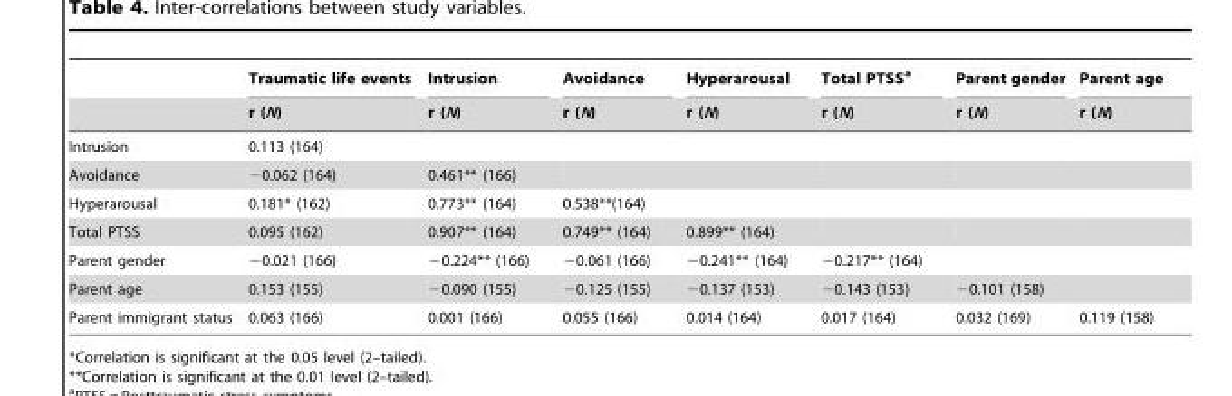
<table><thead><tr><td rowspan="2"></td><td rowspan="2">Traumatic life events r (N)</td><td rowspan="2">Intrusion r (N)</td><td rowspan="2">Avoidance r (N)</td><td rowspan="2">Hyperarousal r (N)</td><td rowspan="2">Total PTSS<sup>a</sup> r (N)</td><td rowspan="2">Parent gender r (N)</td><td rowspan="2">Parent age r (N)</td></tr><tr></tr></thead><tbody><tr><td>Intrusion</td><td>0.113 (164)</td><td></td><td></td><td></td><td></td><td></td><td></td></tr><tr><td>Avoidance</td><td>−0.062 (164)</td><td>0.461** (166)</td><td></td><td></td><td></td><td></td><td></td></tr><tr><td>Hyperarousal</td><td>0.181* (162)</td><td>0.773** (164)</td><td>0.538**(164)</td><td></td><td></td><td></td><td></td></tr><tr><td>Total PTSS</td><td>0.095 (162)</td><td>0.907** (164)</td><td>0.749** (164)</td><td>0.899** (164)</td><td></td><td></td><td></td></tr><tr><td>Parent gender</td><td>−0.021 (166)</td><td>−0.224** (166)</td><td>−0.061 (166)</td><td>−0.241** (164)</td><td>−0.217** (164)</td><td></td><td></td></tr><tr><td>Parent age</td><td>0.153 (155)</td><td>−0.090 (155)</td><td>−0.125 (155)</td><td>−0.137 (153)</td><td>−0.143 (153)</td><td>−0.101 (158)</td><td></td></tr><tr><td>Parent immigrant status</td><td>0.063 (166)</td><td>0.001 (166)</td><td>0.055 (166)</td><td>0.014 (164)</td><td>0.017 (164)</td><td>0.032 (169)</td><td>0.119 (158)</td></tr></tbody></table>